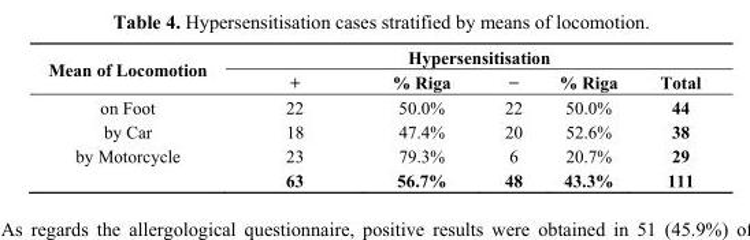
<table><thead><tr><td rowspan="2">Mean of Locomotion</td><td colspan="5">Hypersensitisation</td></tr><tr><td>+</td><td>% Riga</td><td>−</td><td>% Riga</td><td>Total</td></tr></thead><tbody><tr><td>on Foot</td><td>22</td><td>50.0%</td><td>22</td><td>50.0%</td><td>44</td></tr><tr><td>by Car</td><td>18</td><td>47.4%</td><td>20</td><td>52.6%</td><td>38</td></tr><tr><td rowspan="2">by Motorcycle</td><td>23</td><td>79.3%</td><td>6</td><td>20.7%</td><td>29</td></tr><tr><td>63</td><td>56.7%</td><td>48</td><td>43.3%</td><td>111</td></tr></tbody></table>